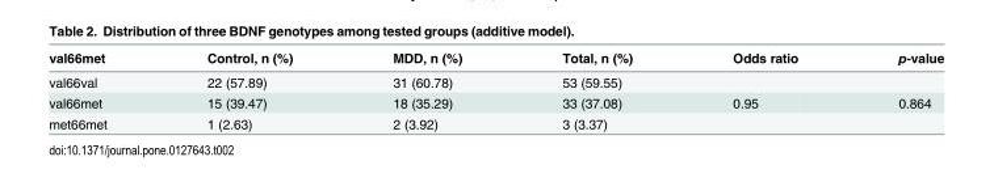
<table><thead><tr><td>val66met</td><td>Control, n (%)</td><td>MDD, n (%)</td><td>Total, n (%)</td><td>Odds ratio</td><td>p-value</td></tr></thead><tbody><tr><td>val66val</td><td>22 (57.89)</td><td>31 (60.78)</td><td>53 (59.55)</td><td></td><td></td></tr><tr><td>val66met</td><td>15 (39.47)</td><td>18 (35.29)</td><td>33 (37.08)</td><td>0.95</td><td>0.864</td></tr><tr><td>met66met</td><td>1 (2.63)</td><td>2 (3.92)</td><td>3 (3.37)</td><td></td><td></td></tr></tbody></table>